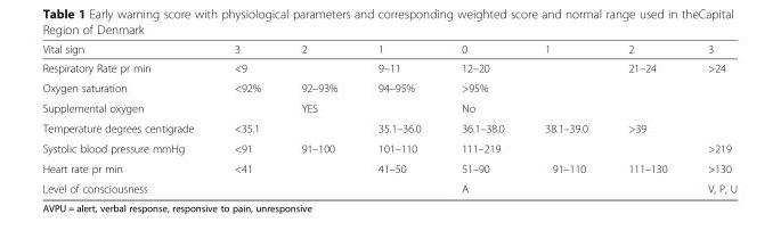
<table><thead><tr><td>Vital sign</td><td>3</td><td>2</td><td>1</td><td>0</td><td>1</td><td>2</td><td>3</td></tr></thead><tbody><tr><td>Respiratory Rate pr min</td><td>&lt;9</td><td></td><td>9–11</td><td>12–20</td><td></td><td>21–24</td><td>&gt;24</td></tr><tr><td>Oxygen saturation</td><td>&lt;92%</td><td>92–93%</td><td>94–95%</td><td>&gt;95%</td><td></td><td></td><td></td></tr><tr><td>Supplemental oxygen</td><td></td><td>YES</td><td></td><td>No</td><td></td><td></td><td></td></tr><tr><td>Temperature degrees centigrade</td><td>&lt;35.1</td><td></td><td>35.1–36.0</td><td>36.1–38.0</td><td>38.1–39.0</td><td>&gt;39</td><td></td></tr><tr><td>Systolic blood pressure mmHg</td><td>&lt;91</td><td>91–100</td><td>101–110</td><td>111–219</td><td></td><td></td><td>&gt;219</td></tr><tr><td>Heart rate pr min</td><td>&lt;41</td><td></td><td>41–50</td><td>51–90</td><td>91–110</td><td>111–130</td><td>&gt;130</td></tr><tr><td>Level of consciousness</td><td></td><td></td><td></td><td>A</td><td></td><td></td><td>V, P, U</td></tr></tbody></table>